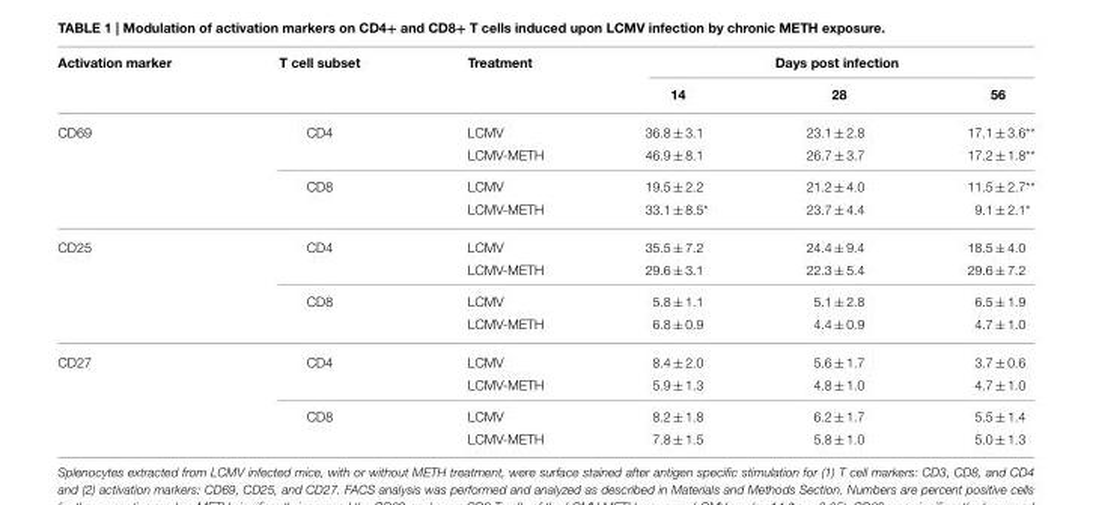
<table><thead><tr><td rowspan="2">Activation marker</td><td rowspan="2">T cell subset</td><td rowspan="2">Treatment</td><td colspan="3">Days post infection</td></tr><tr><td>14</td><td>28</td><td>56</td></tr></thead><tbody><tr><td rowspan="4">CD69</td><td>CD4</td><td>LCMV</td><td>36.8 ± 3.1</td><td>23.1 ± 2.8</td><td>17.1 ± 3.6**</td></tr><tr><td></td><td>LCMV-METH</td><td>46.9 ± 8.1</td><td>26.7 ± 3.7</td><td>17.2 ± 1.8**</td></tr><tr><td>CD8</td><td>LCMV</td><td>19.5 ± 2.2</td><td>21.2 ± 4.0</td><td>11.5 ± 2.7**</td></tr><tr><td></td><td>LCMV-METH</td><td>33.1 ± 8.5*</td><td>23.7 ± 4.4</td><td>9.1 ± 2.1*</td></tr><tr><td rowspan="4">CD25</td><td>CD4</td><td>LCMV</td><td>35.5 ± 7.2</td><td>24.4 ± 9.4</td><td>18.5 ± 4.0</td></tr><tr><td></td><td>LCMV-METH</td><td>29.6 ± 3.1</td><td>22.3 ± 5.4</td><td>29.6 ± 7.2</td></tr><tr><td>CD8</td><td>LCMV</td><td>5.8 ± 1.1</td><td>5.1 ± 2.8</td><td>6.5 ± 1.9</td></tr><tr><td></td><td>LCMV-METH</td><td>6.8 ± 0.9</td><td>4.4 ± 0.9</td><td>4.7 ± 1.0</td></tr><tr><td rowspan="4">CD27</td><td>CD4</td><td>LCMV</td><td>8.4 ± 2.0</td><td>5.6 ± 1.7</td><td>3.7 ± 0.6</td></tr><tr><td></td><td>LCMV-METH</td><td>5.9 ± 1.3</td><td>4.8 ± 1.0</td><td>4.7 ± 1.0</td></tr><tr><td>CD8</td><td>LCMV</td><td>8.2 ± 1.8</td><td>6.2 ± 1.7</td><td>5.5 ± 1.4</td></tr><tr><td></td><td>LCMV-METH</td><td>7.8 ± 1.5</td><td>5.8 ± 1.0</td><td>5.0 ± 1.3</td></tr></tbody></table>